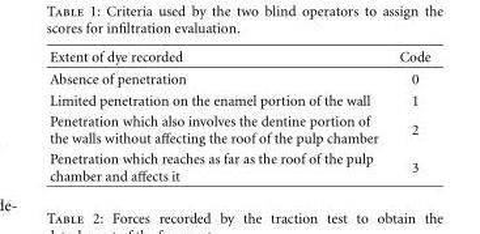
<table><thead><tr><td>Extent of dye recorded</td><td>Code</td></tr></thead><tbody><tr><td>Absence of penetration</td><td>0</td></tr><tr><td>Limited penetration on the enamel portion of the wall</td><td>1</td></tr><tr><td>Penetration which also involves the dentine portion of the walls without affecting the roof of the pulp chamber</td><td>2</td></tr><tr><td>Penetration which reaches as far as the roof of the pulp chamber and affects it</td><td>3</td></tr></tbody></table>